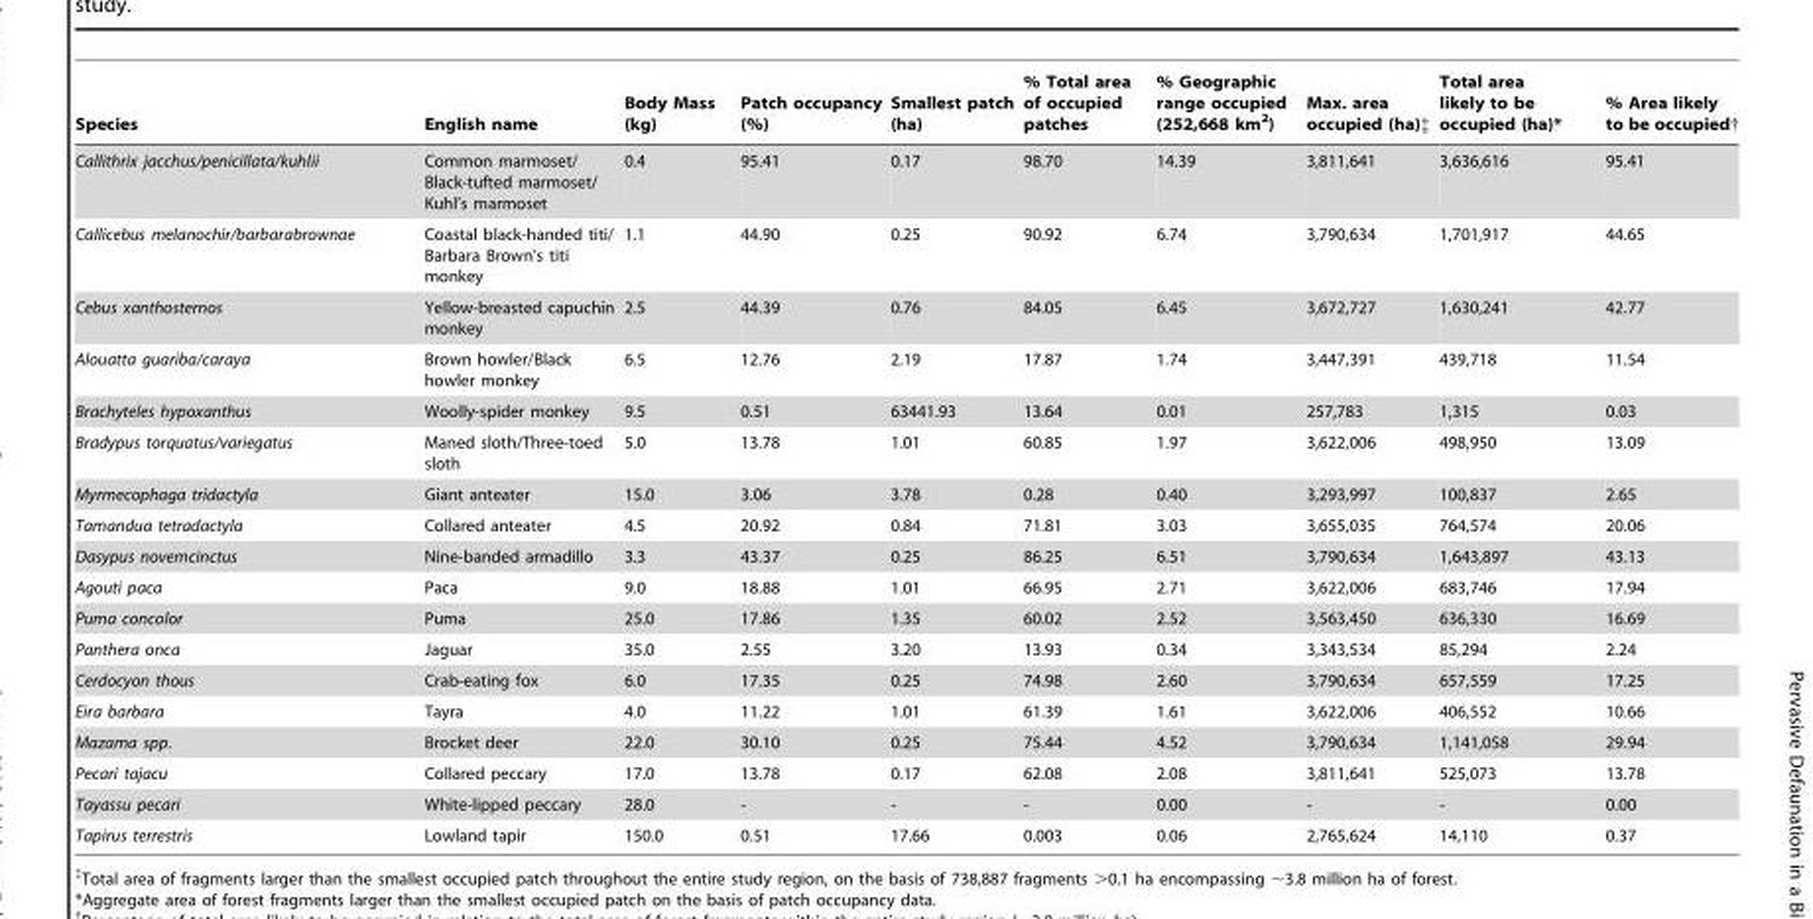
<table><thead><tr><td>Species</td><td>English name</td><td>Body Mass (kg)</td><td>Patch occupancy (%)</td><td>Smallest patch (ha)</td><td>% Total area of occupied patches</td><td>% Geographic range occupied (252,668 km<sup>2</sup>)</td><td>Max. area occupied (ha)‡</td><td>Total area likely to be occupied (ha)*</td><td>% Area likely to be occupied†</td></tr></thead><tbody><tr><td>Callithrix jacchus/penicillata/kuhlii</td><td>Common marmoset/ Black-tufted marmoset/ Kuhl’s marmoset</td><td>0.4</td><td>95.41</td><td>0.17</td><td>98.70</td><td>14.39</td><td>3,811,641</td><td>3,636,616</td><td>95.41</td></tr><tr><td>Callicebus melanochir/barbarabrownae</td><td>Coastal black-handed titi/ Barbara Brown’s titi monkey</td><td>1.1</td><td>44.90</td><td>0.25</td><td>90.92</td><td>6.74</td><td>3,790,634</td><td>1,701,917</td><td>44.65</td></tr><tr><td>Cebus xanthosternos</td><td>Yellow-breasted capuchin monkey</td><td>2.5</td><td>44.39</td><td>0.76</td><td>84.05</td><td>6.45</td><td>3,672,727</td><td>1,630,241</td><td>42.77</td></tr><tr><td>Alouatta guariba/caraya</td><td>Brown howler/Black howler monkey</td><td>6.5</td><td>12.76</td><td>2.19</td><td>17.87</td><td>1.74</td><td>3,447,391</td><td>439,718</td><td>11.54</td></tr><tr><td>Brachyteles hypoxanthus</td><td>Woolly-spider monkey</td><td>9.5</td><td>0.51</td><td>63441.93</td><td>13.64</td><td>0.01</td><td>257,783</td><td>1,315</td><td>0.03</td></tr><tr><td>Bradypus torquatus/variegatus</td><td>Maned sloth/Three-toed sloth</td><td>5.0</td><td>13.78</td><td>1.01</td><td>60.85</td><td>1.97</td><td>3,622,006</td><td>498,950</td><td>13.09</td></tr><tr><td>Myrmecophaga tridactyla</td><td>Giant anteater</td><td>15.0</td><td>3.06</td><td>3.78</td><td>0.28</td><td>0.40</td><td>3,293,997</td><td>100,837</td><td>2.65</td></tr><tr><td>Tamandua tetradactyla</td><td>Collared anteater</td><td>4.5</td><td>20.92</td><td>0.84</td><td>71.81</td><td>3.03</td><td>3,655,035</td><td>764,574</td><td>20.06</td></tr><tr><td>Dasypus novemcinctus</td><td>Nine-banded armadillo</td><td>3.3</td><td>43.37</td><td>0.25</td><td>86.25</td><td>6.51</td><td>3,790,634</td><td>1,643,897</td><td>43.13</td></tr><tr><td>Agouti paca</td><td>Paca</td><td>9.0</td><td>18.88</td><td>1.01</td><td>66.95</td><td>2.71</td><td>3,622,006</td><td>683,746</td><td>17.94</td></tr><tr><td>Puma concolor</td><td>Puma</td><td>25.0</td><td>17.86</td><td>1.35</td><td>60.02</td><td>2.52</td><td>3,563,450</td><td>636,330</td><td>16.69</td></tr><tr><td>Panthera onca</td><td>Jaguar</td><td>35.0</td><td>2.55</td><td>3.20</td><td>13.93</td><td>0.34</td><td>3,343,534</td><td>85,294</td><td>2.24</td></tr><tr><td>Cerdocyon thous</td><td>Crab-eating fox</td><td>6.0</td><td>17.35</td><td>0.25</td><td>74.98</td><td>2.60</td><td>3,790,634</td><td>657,559</td><td>17.25</td></tr><tr><td>Eira barbara</td><td>Tayra</td><td>4.0</td><td>11.22</td><td>1.01</td><td>61.39</td><td>1.61</td><td>3,622,006</td><td>406,552</td><td>10.66</td></tr><tr><td>Mazama spp.</td><td>Brocket deer</td><td>22.0</td><td>30.10</td><td>0.25</td><td>75.44</td><td>4.52</td><td>3,790,634</td><td>1,141,058</td><td>29.94</td></tr><tr><td>Pecari tajacu</td><td>Collared peccary</td><td>17.0</td><td>13.78</td><td>0.17</td><td>62.08</td><td>2.08</td><td>3,811,641</td><td>525,073</td><td>13.78</td></tr><tr><td>Tayassu pecari</td><td>White-lipped peccary</td><td>28.0</td><td>-</td><td>-</td><td>-</td><td>0.00</td><td>-</td><td>-</td><td>0.00</td></tr><tr><td>Tapirus terrestris</td><td>Lowland tapir</td><td>150.0</td><td>0.51</td><td>17.66</td><td>0.003</td><td>0.06</td><td>2,765,624</td><td>14,110</td><td>0.37</td></tr></tbody></table>